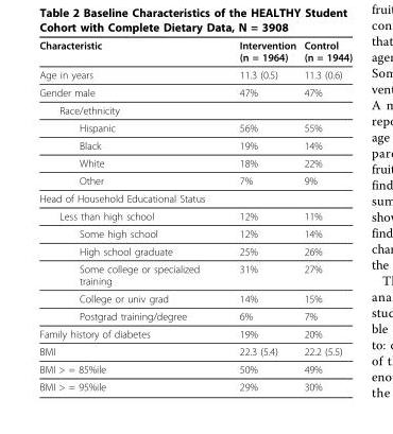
<table><thead><tr><td>Characteristic</td><td>Intervention (n = 1964)</td><td>Control (n = 1944)</td></tr></thead><tbody><tr><td>Age in years</td><td>11.3 (0.5)</td><td>11.3 (0.6)</td></tr><tr><td>Gender male</td><td>47%</td><td>47%</td></tr><tr><td colspan="3">Race/ethnicity</td></tr><tr><td>Hispanic</td><td>56%</td><td>55%</td></tr><tr><td>Black</td><td>19%</td><td>14%</td></tr><tr><td>White</td><td>18%</td><td>22%</td></tr><tr><td>Other</td><td>7%</td><td>9%</td></tr><tr><td colspan="3">Head of Household Educational Status</td></tr><tr><td>Less than high school</td><td>12%</td><td>11%</td></tr><tr><td>Some high school</td><td>12%</td><td>14%</td></tr><tr><td>High school graduate</td><td>25%</td><td>26%</td></tr><tr><td>Some college or specialized training</td><td>31%</td><td>27%</td></tr><tr><td>College or univ grad</td><td>14%</td><td>15%</td></tr><tr><td>Postgrad training/degree</td><td>6%</td><td>7%</td></tr><tr><td>Family history of diabetes</td><td>19%</td><td>20%</td></tr><tr><td>BMI</td><td>22.3 (5.4)</td><td>22.2 (5.5)</td></tr><tr><td>BMI &gt; = 85%ile</td><td>50%</td><td>49%</td></tr><tr><td>BMI &gt; = 95%ile</td><td>29%</td><td>30%</td></tr></tbody></table>